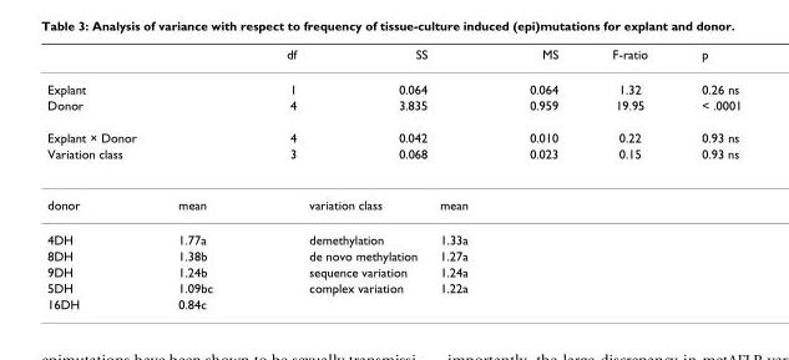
<table><thead><tr><td></td><td>df</td><td>SS</td><td>MS</td><td>F-ratio</td><td>p</td></tr></thead><tbody><tr><td>Explant</td><td>1</td><td>0.064</td><td>0.064</td><td>1.32</td><td>0.26 ns</td></tr><tr><td>Donor</td><td>4</td><td>3.835</td><td>0.959</td><td>19.95</td><td>&lt; .0001</td></tr><tr><td>Explant × Donor</td><td>4</td><td>0.042</td><td>0.010</td><td>0.22</td><td>0.93 ns</td></tr><tr><td>Variation class</td><td>3</td><td>0.068</td><td>0.023</td><td>0.15</td><td>0.93 ns</td></tr><tr><td>donor</td><td>mean</td><td>variation class</td><td>mean</td><td></td><td></td></tr><tr><td>4DH</td><td>1.77a</td><td>demethylation</td><td>1.33a</td><td></td><td></td></tr><tr><td>8DH</td><td>1.38b</td><td>de novo methylation</td><td>1.27a</td><td></td><td></td></tr><tr><td>9DH</td><td>1.24b</td><td>sequence variation</td><td>1.24a</td><td></td><td></td></tr><tr><td>5DH</td><td>1.09bc</td><td>complex variation</td><td>1.22a</td><td></td><td></td></tr><tr><td>16DH</td><td>0.84c</td><td></td><td></td><td></td><td></td></tr></tbody></table>